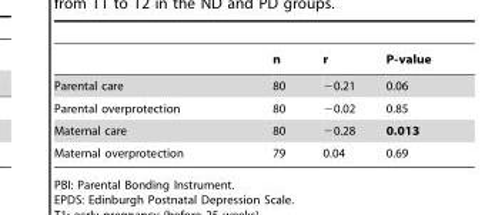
<table><thead><tr><td></td><td>n</td><td>r</td><td>P-value</td></tr></thead><tbody><tr><td>Parental care</td><td>80</td><td>−0.21</td><td>0.06</td></tr><tr><td>Parental overprotection</td><td>80</td><td>−0.02</td><td>0.85</td></tr><tr><td>Maternal care</td><td>80</td><td>−0.28</td><td>0.013</td></tr><tr><td>Maternal overprotection</td><td>79</td><td>0.04</td><td>0.69</td></tr></tbody></table>